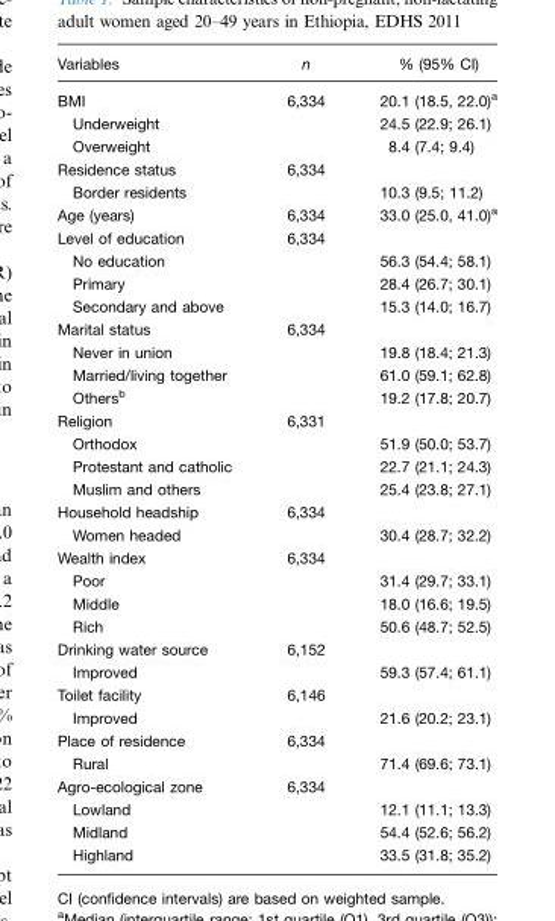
<table><thead><tr><td>Variables</td><td>n</td><td>% (95% CI)</td></tr></thead><tbody><tr><td>BMI</td><td>6,334</td><td>20.1 (18.5, 22.0)<sup>a</sup></td></tr><tr><td>Underweight</td><td></td><td>24.5 (22.9; 26.1)</td></tr><tr><td>Overweight</td><td></td><td>8.4 (7.4; 9.4)</td></tr><tr><td>Residence status</td><td>6,334</td><td></td></tr><tr><td>Border residents</td><td></td><td>10.3 (9.5; 11.2)</td></tr><tr><td>Age (years)</td><td>6,334</td><td>33.0 (25.0, 41.0)<sup>a</sup></td></tr><tr><td>Level of education</td><td>6,334</td><td></td></tr><tr><td>No education</td><td></td><td>56.3 (54.4; 58.1)</td></tr><tr><td>Primary</td><td></td><td>28.4 (26.7; 30.1)</td></tr><tr><td>Secondary and above</td><td></td><td>15.3 (14.0; 16.7)</td></tr><tr><td>Marital status</td><td>6,334</td><td></td></tr><tr><td>Never in union</td><td></td><td>19.8 (18.4; 21.3)</td></tr><tr><td>Married/living together</td><td></td><td>61.0 (59.1; 62.8)</td></tr><tr><td>Others<sup>b</sup></td><td></td><td>19.2 (17.8; 20.7)</td></tr><tr><td>Religion</td><td>6,331</td><td></td></tr><tr><td>Orthodox</td><td></td><td>51.9 (50.0; 53.7)</td></tr><tr><td>Protestant and catholic</td><td></td><td>22.7 (21.1; 24.3)</td></tr><tr><td>Muslim and others</td><td></td><td>25.4 (23.8; 27.1)</td></tr><tr><td>Household headship</td><td>6,334</td><td></td></tr><tr><td>Women headed</td><td></td><td>30.4 (28.7; 32.2)</td></tr><tr><td>Wealth index</td><td>6,334</td><td></td></tr><tr><td>Poor</td><td></td><td>31.4 (29.7; 33.1)</td></tr><tr><td>Middle</td><td></td><td>18.0 (16.6; 19.5)</td></tr><tr><td>Rich</td><td></td><td>50.6 (48.7; 52.5)</td></tr><tr><td>Drinking water source</td><td>6,152</td><td></td></tr><tr><td>Improved</td><td></td><td>59.3 (57.4; 61.1)</td></tr><tr><td>Toilet facility</td><td>6,146</td><td></td></tr><tr><td>Improved</td><td></td><td>21.6 (20.2; 23.1)</td></tr><tr><td>Place of residence</td><td>6,334</td><td></td></tr><tr><td>Rural</td><td></td><td>71.4 (69.6; 73.1)</td></tr><tr><td>Agro-ecological zone</td><td>6,334</td><td></td></tr><tr><td>Lowland</td><td></td><td>12.1 (11.1; 13.3)</td></tr><tr><td>Midland</td><td></td><td>54.4 (52.6; 56.2)</td></tr><tr><td>Highland</td><td></td><td>33.5 (31.8; 35.2)</td></tr></tbody></table>